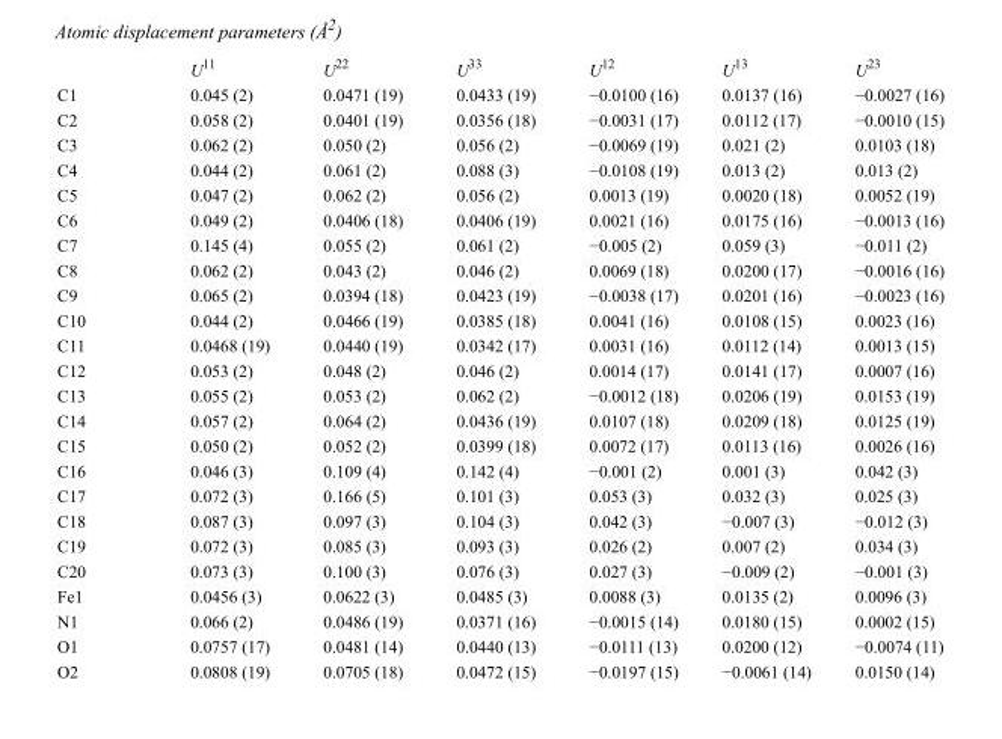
<table><thead><tr><td></td><td>U<sup>11</sup></td><td>U<sup>22</sup></td><td>U<sup>33</sup></td><td>U<sup>12</sup></td><td>U<sup>13</sup></td><td>U<sup>23</sup></td></tr></thead><tbody><tr><td>C1</td><td>0.045 (2)</td><td>0.0471 (19)</td><td>0.0433 (19)</td><td>−0.0100 (16)</td><td>0.0137 (16)</td><td>−0.0027 (16)</td></tr><tr><td>C2</td><td>0.058 (2)</td><td>0.0401 (19)</td><td>0.0356 (18)</td><td>−0.0031 (17)</td><td>0.0112 (17)</td><td>−0.0010 (15)</td></tr><tr><td>C3</td><td>0.062 (2)</td><td>0.050 (2)</td><td>0.056 (2)</td><td>−0.0069 (19)</td><td>0.021 (2)</td><td>0.0103 (18)</td></tr><tr><td>C4</td><td>0.044 (2)</td><td>0.061 (2)</td><td>0.088 (3)</td><td>−0.0108 (19)</td><td>0.013 (2)</td><td>0.013 (2)</td></tr><tr><td>C5</td><td>0.047 (2)</td><td>0.062 (2)</td><td>0.056 (2)</td><td>0.0013 (19)</td><td>0.0020 (18)</td><td>0.0052 (19)</td></tr><tr><td>C6</td><td>0.049 (2)</td><td>0.0406 (18)</td><td>0.0406 (19)</td><td>0.0021 (16)</td><td>0.0175 (16)</td><td>−0.0013 (16)</td></tr><tr><td>C7</td><td>0.145 (4)</td><td>0.055 (2)</td><td>0.061 (2)</td><td>−0.005 (2)</td><td>0.059 (3)</td><td>−0.011 (2)</td></tr><tr><td>C8</td><td>0.062 (2)</td><td>0.043 (2)</td><td>0.046 (2)</td><td>0.0069 (18)</td><td>0.0200 (17)</td><td>−0.0016 (16)</td></tr><tr><td>C9</td><td>0.065 (2)</td><td>0.0394 (18)</td><td>0.0423 (19)</td><td>−0.0038 (17)</td><td>0.0201 (16)</td><td>−0.0023 (16)</td></tr><tr><td>C10</td><td>0.044 (2)</td><td>0.0466 (19)</td><td>0.0385 (18)</td><td>0.0041 (16)</td><td>0.0108 (15)</td><td>0.0023 (16)</td></tr><tr><td>C11</td><td>0.0468 (19)</td><td>0.0440 (19)</td><td>0.0342 (17)</td><td>0.0031 (16)</td><td>0.0112 (14)</td><td>0.0013 (15)</td></tr><tr><td>C12</td><td>0.053 (2)</td><td>0.048 (2)</td><td>0.046 (2)</td><td>0.0014 (17)</td><td>0.0141 (17)</td><td>0.0007 (16)</td></tr><tr><td>C13</td><td>0.055 (2)</td><td>0.053 (2)</td><td>0.062 (2)</td><td>−0.0012 (18)</td><td>0.0206 (19)</td><td>0.0153 (19)</td></tr><tr><td>C14</td><td>0.057 (2)</td><td>0.064 (2)</td><td>0.0436 (19)</td><td>0.0107 (18)</td><td>0.0209 (18)</td><td>0.0125 (19)</td></tr><tr><td>C15</td><td>0.050 (2)</td><td>0.052 (2)</td><td>0.0399 (18)</td><td>0.0072 (17)</td><td>0.0113 (16)</td><td>0.0026 (16)</td></tr><tr><td>C16</td><td>0.046 (3)</td><td>0.109 (4)</td><td>0.142 (4)</td><td>−0.001 (2)</td><td>0.001 (3)</td><td>0.042 (3)</td></tr><tr><td>C17</td><td>0.072 (3)</td><td>0.166 (5)</td><td>0.101 (3)</td><td>0.053 (3)</td><td>0.032 (3)</td><td>0.025 (3)</td></tr><tr><td>C18</td><td>0.087 (3)</td><td>0.097 (3)</td><td>0.104 (3)</td><td>0.042 (3)</td><td>−0.007 (3)</td><td>−0.012 (3)</td></tr><tr><td>C19</td><td>0.072 (3)</td><td>0.085 (3)</td><td>0.093 (3)</td><td>0.026 (2)</td><td>0.007 (2)</td><td>0.034 (3)</td></tr><tr><td>C20</td><td>0.073 (3)</td><td>0.100 (3)</td><td>0.076 (3)</td><td>0.027 (3)</td><td>−0.009 (2)</td><td>−0.001 (3)</td></tr><tr><td>Fe1</td><td>0.0456 (3)</td><td>0.0622 (3)</td><td>0.0485 (3)</td><td>0.0088 (3)</td><td>0.0135 (2)</td><td>0.0096 (3)</td></tr><tr><td>N1</td><td>0.066 (2)</td><td>0.0486 (19)</td><td>0.0371 (16)</td><td>−0.0015 (14)</td><td>0.0180 (15)</td><td>0.0002 (15)</td></tr><tr><td>O1</td><td>0.0757 (17)</td><td>0.0481 (14)</td><td>0.0440 (13)</td><td>−0.0111 (13)</td><td>0.0200 (12)</td><td>−0.0074 (11)</td></tr><tr><td>O2</td><td>0.0808 (19)</td><td>0.0705 (18)</td><td>0.0472 (15)</td><td>−0.0197 (15)</td><td>−0.0061 (14)</td><td>0.0150 (14)</td></tr></tbody></table>